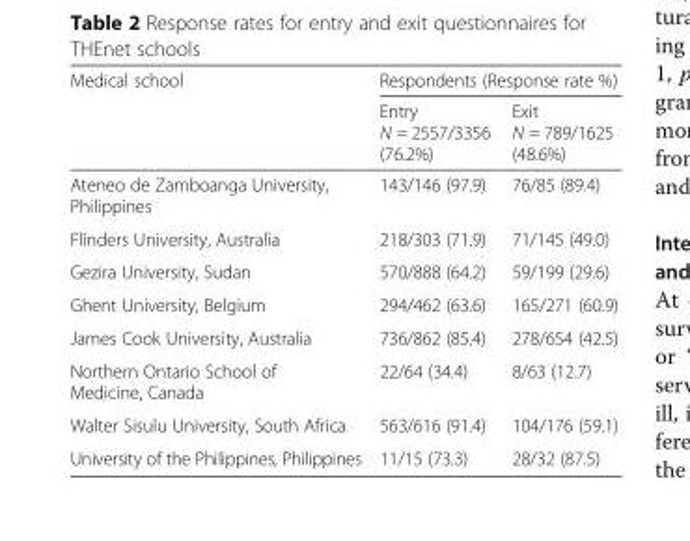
<table><thead><tr><td rowspan="2">Medical school</td><td colspan="2">Respondents (Response rate %)</td></tr><tr><td>Entry N = 2557/3356 (76.2%)</td><td>Exit N = 789/1625 (48.6%)</td></tr></thead><tbody><tr><td>Ateneo de Zamboanga University, Philippines</td><td>143/146 (97.9)</td><td>76/85 (89.4)</td></tr><tr><td>Flinders University, Australia</td><td>218/303 (71.9)</td><td>71/145 (49.0)</td></tr><tr><td>Gezira University, Sudan</td><td>570/888 (64.2)</td><td>59/199 (29.6)</td></tr><tr><td>Ghent University, Belgium</td><td>294/462 (63.6)</td><td>165/271 (60.9)</td></tr><tr><td>James Cook University, Australia</td><td>736/862 (85.4)</td><td>278/654 (42.5)</td></tr><tr><td>Northern Ontario School of Medicine, Canada</td><td>22/64 (34.4)</td><td>8/63 (12.7)</td></tr><tr><td>Walter Sisulu University, South Africa</td><td>563/616 (91.4)</td><td>104/176 (59.1)</td></tr><tr><td>University of the Philippines, Philippines</td><td>11/15 (73.3)</td><td>28/32 (87.5)</td></tr></tbody></table>